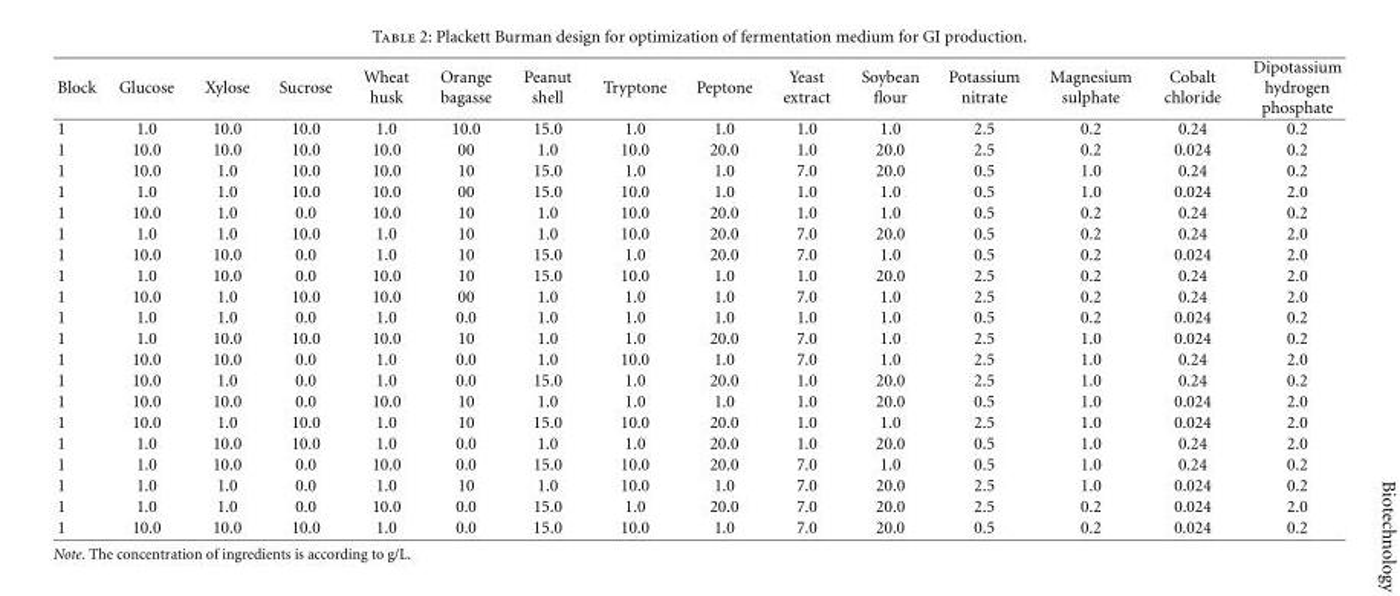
<table><thead><tr><td>Block</td><td>Glucose</td><td>Xylose</td><td>Sucrose</td><td>Wheat husk</td><td>Orange bagasse</td><td>Peanut shell</td><td>Tryptone</td><td>Peptone</td><td>Yeast extract</td><td>Soybean flour</td><td>Potassium nitrate</td><td>Magnesium sulphate</td><td>Cobalt chloride</td><td>Dipotassium hydrogen phosphate</td></tr></thead><tbody><tr><td>1</td><td>1.0</td><td>10.0</td><td>10.0</td><td>1.0</td><td>10.0</td><td>15.0</td><td>1.0</td><td>1.0</td><td>1.0</td><td>1.0</td><td>2.5</td><td>0.2</td><td>0.24</td><td>0.2</td></tr><tr><td>1</td><td>10.0</td><td>10.0</td><td>10.0</td><td>10.0</td><td>00</td><td>1.0</td><td>10.0</td><td>20.0</td><td>1.0</td><td>20.0</td><td>2.5</td><td>0.2</td><td>0.024</td><td>0.2</td></tr><tr><td>1</td><td>10.0</td><td>1.0</td><td>10.0</td><td>10.0</td><td>10</td><td>15.0</td><td>1.0</td><td>1.0</td><td>7.0</td><td>20.0</td><td>0.5</td><td>1.0</td><td>0.24</td><td>0.2</td></tr><tr><td>1</td><td>1.0</td><td>1.0</td><td>10.0</td><td>10.0</td><td>00</td><td>15.0</td><td>10.0</td><td>1.0</td><td>1.0</td><td>1.0</td><td>0.5</td><td>1.0</td><td>0.024</td><td>2.0</td></tr><tr><td>1</td><td>10.0</td><td>1.0</td><td>0.0</td><td>10.0</td><td>10</td><td>1.0</td><td>10.0</td><td>20.0</td><td>1.0</td><td>1.0</td><td>0.5</td><td>0.2</td><td>0.24</td><td>0.2</td></tr><tr><td>1</td><td>1.0</td><td>1.0</td><td>10.0</td><td>1.0</td><td>10</td><td>1.0</td><td>10.0</td><td>20.0</td><td>7.0</td><td>20.0</td><td>0.5</td><td>0.2</td><td>0.24</td><td>2.0</td></tr><tr><td>1</td><td>10.0</td><td>10.0</td><td>0.0</td><td>1.0</td><td>10</td><td>15.0</td><td>1.0</td><td>20.0</td><td>7.0</td><td>1.0</td><td>0.5</td><td>0.2</td><td>0.024</td><td>2.0</td></tr><tr><td>1</td><td>1.0</td><td>10.0</td><td>0.0</td><td>10.0</td><td>10</td><td>15.0</td><td>10.0</td><td>1.0</td><td>1.0</td><td>20.0</td><td>2.5</td><td>0.2</td><td>0.24</td><td>2.0</td></tr><tr><td>1</td><td>10.0</td><td>1.0</td><td>10.0</td><td>10.0</td><td>00</td><td>1.0</td><td>1.0</td><td>1.0</td><td>7.0</td><td>1.0</td><td>2.5</td><td>0.2</td><td>0.24</td><td>2.0</td></tr><tr><td>1</td><td>1.0</td><td>1.0</td><td>0.0</td><td>1.0</td><td>0.0</td><td>1.0</td><td>1.0</td><td>1.0</td><td>1.0</td><td>1.0</td><td>0.5</td><td>0.2</td><td>0.024</td><td>0.2</td></tr><tr><td>1</td><td>1.0</td><td>10.0</td><td>10.0</td><td>10.0</td><td>10</td><td>1.0</td><td>1.0</td><td>20.0</td><td>7.0</td><td>1.0</td><td>2.5</td><td>1.0</td><td>0.024</td><td>0.2</td></tr><tr><td>1</td><td>10.0</td><td>10.0</td><td>0.0</td><td>1.0</td><td>0.0</td><td>1.0</td><td>10.0</td><td>1.0</td><td>7.0</td><td>1.0</td><td>2.5</td><td>1.0</td><td>0.24</td><td>2.0</td></tr><tr><td>1</td><td>10.0</td><td>1.0</td><td>0.0</td><td>1.0</td><td>0.0</td><td>15.0</td><td>1.0</td><td>20.0</td><td>1.0</td><td>20.0</td><td>2.5</td><td>1.0</td><td>0.24</td><td>0.2</td></tr><tr><td>1</td><td>10.0</td><td>10.0</td><td>0.0</td><td>10.0</td><td>10</td><td>1.0</td><td>1.0</td><td>1.0</td><td>1.0</td><td>20.0</td><td>0.5</td><td>1.0</td><td>0.024</td><td>2.0</td></tr><tr><td>1</td><td>10.0</td><td>1.0</td><td>10.0</td><td>1.0</td><td>10</td><td>15.0</td><td>10.0</td><td>20.0</td><td>1.0</td><td>1.0</td><td>2.5</td><td>1.0</td><td>0.024</td><td>2.0</td></tr><tr><td>1</td><td>1.0</td><td>10.0</td><td>10.0</td><td>1.0</td><td>0.0</td><td>1.0</td><td>1.0</td><td>20.0</td><td>1.0</td><td>20.0</td><td>0.5</td><td>1.0</td><td>0.24</td><td>2.0</td></tr><tr><td>1</td><td>1.0</td><td>10.0</td><td>0.0</td><td>10.0</td><td>0.0</td><td>15.0</td><td>10.0</td><td>20.0</td><td>7.0</td><td>1.0</td><td>0.5</td><td>1.0</td><td>0.24</td><td>0.2</td></tr><tr><td>1</td><td>1.0</td><td>1.0</td><td>0.0</td><td>1.0</td><td>10</td><td>1.0</td><td>10.0</td><td>1.0</td><td>7.0</td><td>20.0</td><td>2.5</td><td>1.0</td><td>0.024</td><td>0.2</td></tr><tr><td>1</td><td>1.0</td><td>1.0</td><td>0.0</td><td>10.0</td><td>0.0</td><td>15.0</td><td>1.0</td><td>20.0</td><td>7.0</td><td>20.0</td><td>2.5</td><td>0.2</td><td>0.024</td><td>2.0</td></tr><tr><td>1</td><td>10.0</td><td>10.0</td><td>10.0</td><td>1.0</td><td>0.0</td><td>15.0</td><td>10.0</td><td>1.0</td><td>7.0</td><td>20.0</td><td>0.5</td><td>0.2</td><td>0.024</td><td>0.2</td></tr></tbody></table>